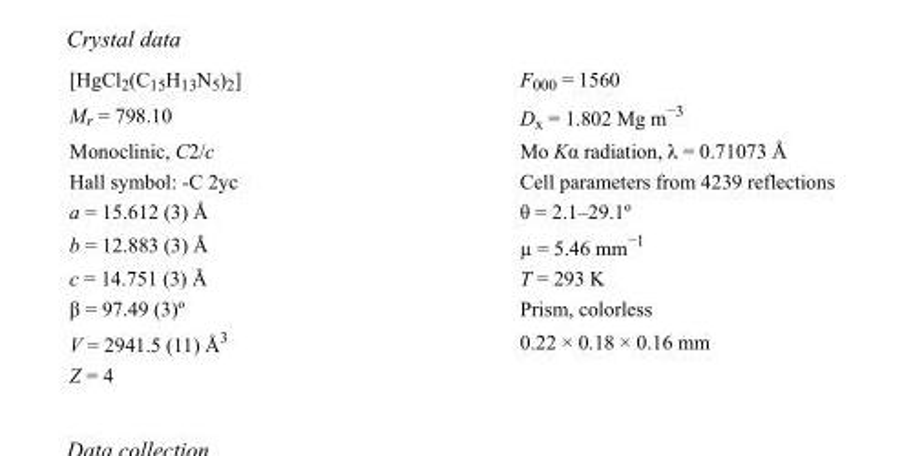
<table><tbody><tr><td>[HgCl<sub>2</sub>(C<sub>15</sub>H<sub>13</sub>N<sub>5</sub>)<sub>2</sub>]</td><td>F000 = 1560</td></tr><tr><td>M<sub>r</sub> = 798.10</td><td>D<sub>x</sub> = 1.802 Mg m<sup>−3</sup></td></tr><tr><td>Monoclinic, C2/c</td><td>Mo Kα radiation, λ = 0.71073 Å</td></tr><tr><td>Hall symbol: -C 2yc</td><td>Cell parameters from 4239 reflections</td></tr><tr><td>a = 15.612 (3) Å</td><td>θ = 2.1–29.1º</td></tr><tr><td>b = 12.883 (3) Å</td><td>µ = 5.46 mm<sup>−1</sup></td></tr><tr><td>c = 14.751 (3) Å</td><td>T = 293 K</td></tr><tr><td>β = 97.49 (3)º</td><td>Prism, colorless</td></tr><tr><td>V = 2941.5 (11) Å<sup>3</sup></td><td>0.22 × 0.18 × 0.16 mm</td></tr><tr><td>Z = 4</td><td></td></tr></tbody></table>